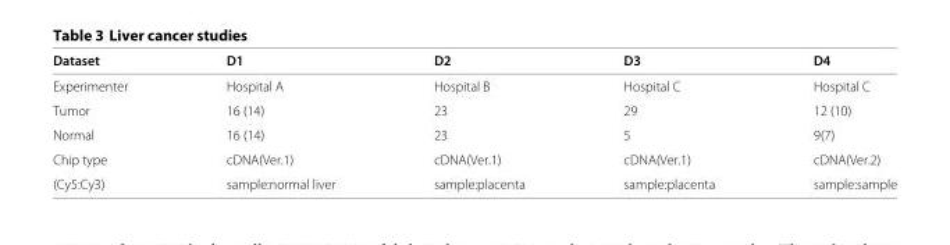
<table><thead><tr><td>Dataset</td><td>D1</td><td>D2</td><td>D3</td><td>D4</td></tr></thead><tbody><tr><td>Experimenter</td><td>Hospital A</td><td>Hospital B</td><td>Hospital C</td><td>Hospital C</td></tr><tr><td>Tumor</td><td>16 (14)</td><td>23</td><td>29</td><td>12 (10)</td></tr><tr><td>Normal</td><td>16 (14)</td><td>23</td><td>5</td><td>9(7)</td></tr><tr><td>Chip type</td><td>cDNA(Ver.1)</td><td>cDNA(Ver.1)</td><td>cDNA(Ver.1)</td><td>cDNA(Ver.2)</td></tr><tr><td>(Cy5:Cy3)</td><td>sample:normal liver</td><td>sample:placenta</td><td>sample:placenta</td><td>sample:sample</td></tr></tbody></table>